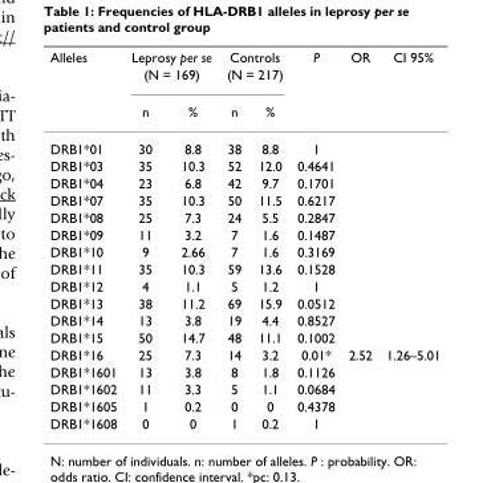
<table><thead><tr><td rowspan="3">Alleles</td><td rowspan="2" colspan="2">Leprosy per se (N = 169)</td><td rowspan="2" colspan="2">Controls (N = 217)</td><td rowspan="3">P</td><td rowspan="3">OR</td><td rowspan="3">CI 95%</td></tr><tr></tr><tr><td>n</td><td>%</td><td>n</td><td>%</td></tr></thead><tbody><tr><td>DRB1*01</td><td>30</td><td>8.8</td><td>38</td><td>8.8</td><td>1</td><td></td><td></td></tr><tr><td>DRB1*03</td><td>35</td><td>10.3</td><td>52</td><td>12.0</td><td>0.4641</td><td></td><td></td></tr><tr><td>DRB1*04</td><td>23</td><td>6.8</td><td>42</td><td>9.7</td><td>0.1701</td><td></td><td></td></tr><tr><td>DRB1*07</td><td>35</td><td>10.3</td><td>50</td><td>11.5</td><td>0.6217</td><td></td><td></td></tr><tr><td>DRB1*08</td><td>25</td><td>7.3</td><td>24</td><td>5.5</td><td>0.2847</td><td></td><td></td></tr><tr><td>DRB1*09</td><td>11</td><td>3.2</td><td>7</td><td>1.6</td><td>0.1487</td><td></td><td></td></tr><tr><td>DRB1*10</td><td>9</td><td>2.66</td><td>7</td><td>1.6</td><td>0.3169</td><td></td><td></td></tr><tr><td>DRB1*11</td><td>35</td><td>10.3</td><td>59</td><td>13.6</td><td>0.1528</td><td></td><td></td></tr><tr><td>DRB1*12</td><td>4</td><td>1.1</td><td>5</td><td>1.2</td><td>1</td><td></td><td></td></tr><tr><td>DRB1*13</td><td>38</td><td>11.2</td><td>69</td><td>15.9</td><td>0.0512</td><td></td><td></td></tr><tr><td>DRB1*14</td><td>13</td><td>3.8</td><td>19</td><td>4.4</td><td>0.8527</td><td></td><td></td></tr><tr><td>DRB1*15</td><td>50</td><td>14.7</td><td>48</td><td>11.1</td><td>0.1002</td><td></td><td></td></tr><tr><td>DRB1*16</td><td>25</td><td>7.3</td><td>14</td><td>3.2</td><td>0.01*</td><td>2.52</td><td>1.26–5.01</td></tr><tr><td>DRB1*1601</td><td>13</td><td>3.8</td><td>8</td><td>1.8</td><td>0.1126</td><td></td><td></td></tr><tr><td>DRB1*1602</td><td>11</td><td>3.3</td><td>5</td><td>1.1</td><td>0.0684</td><td></td><td></td></tr><tr><td>DRB1*1605</td><td>1</td><td>0.2</td><td>0</td><td>0</td><td>0.4378</td><td></td><td></td></tr><tr><td>DRB1*1608</td><td>0</td><td>0</td><td>1</td><td>0.2</td><td>1</td><td></td><td></td></tr></tbody></table>